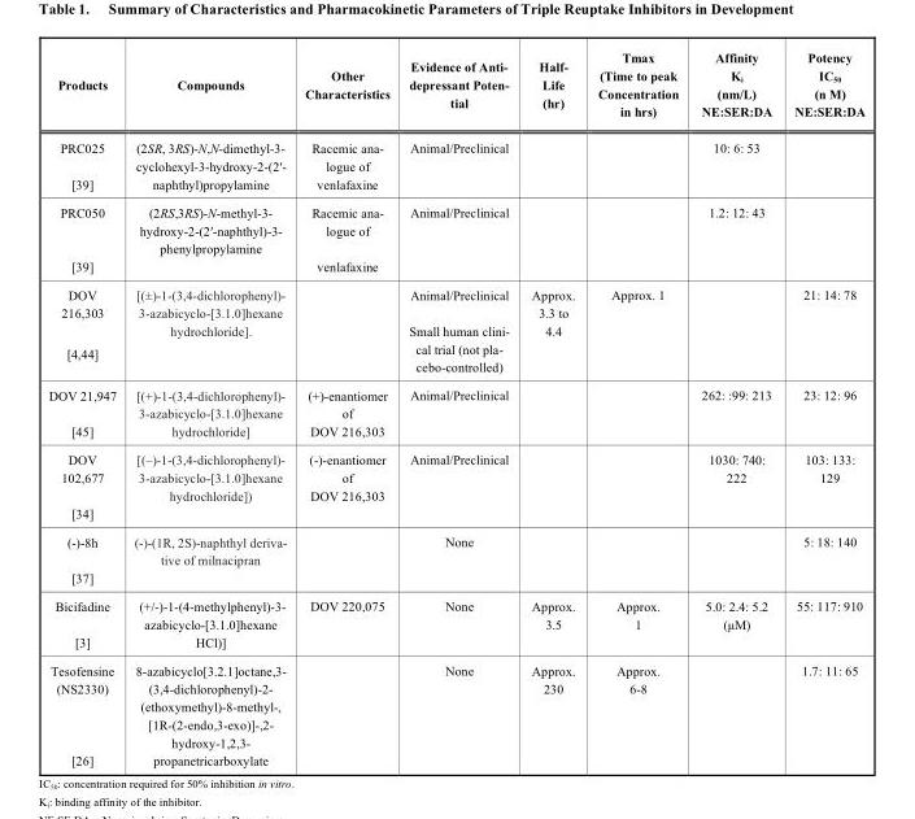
<table><thead><tr><td>Products</td><td>Compounds</td><td>Other Characteristics</td><td>Evidence of Anti- depressant Poten- tial</td><td>Half- Life (hr)</td><td>Tmax (Time to peak Concentration in hrs)</td><td>Affinity K<sub>i</sub> (nm/L) NE:SER:DA</td><td>Potency IC<sub>50</sub> (n M) NE:SER:DA</td></tr></thead><tbody><tr><td>PRC025 [39]</td><td>(2SR, 3RS)-N,N-dimethyl-3- cyclohexyl-3-hydroxy-2-(2′- naphthyl)propylamine</td><td>Racemic ana- logue of venlafaxine</td><td>Animal/Preclinical</td><td></td><td></td><td>10: 6: 53</td><td></td></tr><tr><td>PRC050 [39]</td><td>(2RS,3RS)-N-methyl-3- hydroxy-2-(2′-naphthyl)-3- phenylpropylamine</td><td>Racemic ana- logue of venlafaxine</td><td>Animal/Preclinical</td><td></td><td></td><td>1.2: 12: 43</td><td></td></tr><tr><td>DOV 216,303 [4,44]</td><td>[(±)-1-(3,4-dichlorophenyl)- 3-azabicyclo-[3.1.0]hexane hydrochloride].</td><td></td><td>Animal/Preclinical Small human clini- cal trial (not pla- cebo-controlled)</td><td>Approx. 3.3 to 4.4</td><td>Approx. 1</td><td></td><td>21: 14: 78</td></tr><tr><td>DOV 21,947 [45]</td><td>[(+)-1-(3,4-dichlorophenyl)- 3-azabicyclo-[3.1.0]hexane hydrochloride]</td><td>(+)-enantiomer of DOV 216,303</td><td>Animal/Preclinical</td><td></td><td></td><td>262: :99: 213</td><td>23: 12: 96</td></tr><tr><td>DOV 102,677 [34]</td><td>[(–)-1-(3,4-dichlorophenyl)- 3-azabicyclo-[3.1.0]hexane hydrochloride])</td><td>(-)-enantiomer of DOV 216,303</td><td>Animal/Preclinical</td><td></td><td></td><td>1030: 740: 222</td><td>103: 133: 129</td></tr><tr><td>(-)-8h [37]</td><td>(-)-(1R, 2S)-naphthyl deriva- tive of milnacipran</td><td></td><td>None</td><td></td><td></td><td></td><td>5: 18: 140</td></tr><tr><td>Bicifadine [3]</td><td>(+/-)-1-(4-methylphenyl)-3- azabicyclo-[3.1.0]hexane HCl)]</td><td>DOV 220,075</td><td>None</td><td>Approx. 3.5</td><td>Approx. 1</td><td>5.0: 2.4: 5.2 (µM)</td><td>55: 117: 910</td></tr><tr><td>Tesofensine (NS2330) [26]</td><td>8-azabicyclo[3.2.1]octane,3- (3,4-dichlorophenyl)-2- (ethoxymethyl)-8-methyl-, [1R-(2-endo,3-exo)]-,2- hydroxy-1,2,3- propanetricarboxylate</td><td></td><td>None</td><td>Approx. 230</td><td>Approx. 6-8</td><td></td><td>1.7: 11: 65</td></tr></tbody></table>